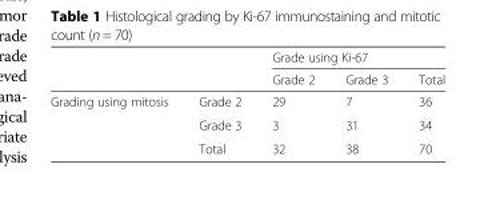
<table><thead><tr><td rowspan="2"></td><td rowspan="2"></td><td colspan="3">Grade using Ki-67</td></tr><tr><td>Grade 2</td><td>Grade 3</td><td>Total</td></tr></thead><tbody><tr><td rowspan="3">Grading using mitosis</td><td>Grade 2</td><td>29</td><td>7</td><td>36</td></tr><tr><td>Grade 3</td><td>3</td><td>31</td><td>34</td></tr><tr><td>Total</td><td>32</td><td>38</td><td>70</td></tr></tbody></table>